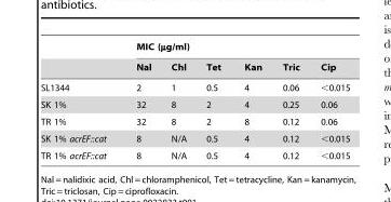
<table><thead><tr><td rowspan="2"></td><td colspan="6">MIC (µg/ml)</td></tr><tr><td>Nal</td><td>Chl</td><td>Tet</td><td>Kan</td><td>Tric</td><td>Cip</td></tr></thead><tbody><tr><td>SL1344</td><td>2</td><td>1</td><td>0.5</td><td>4</td><td>0.06</td><td>&lt;0.015</td></tr><tr><td>SK 1%</td><td>32</td><td>8</td><td>2</td><td>4</td><td>0.25</td><td>0.06</td></tr><tr><td>TR 1%</td><td>32</td><td>8</td><td>2</td><td>8</td><td>0.12</td><td>0.06</td></tr><tr><td>SK 1% acrEF::cat</td><td>8</td><td>N/A</td><td>0.5</td><td>4</td><td>0.12</td><td>&lt;0.015</td></tr><tr><td>TR 1% acrEF::cat</td><td>8</td><td>N/A</td><td>0.5</td><td>4</td><td>0.12</td><td>&lt;0.015</td></tr></tbody></table>